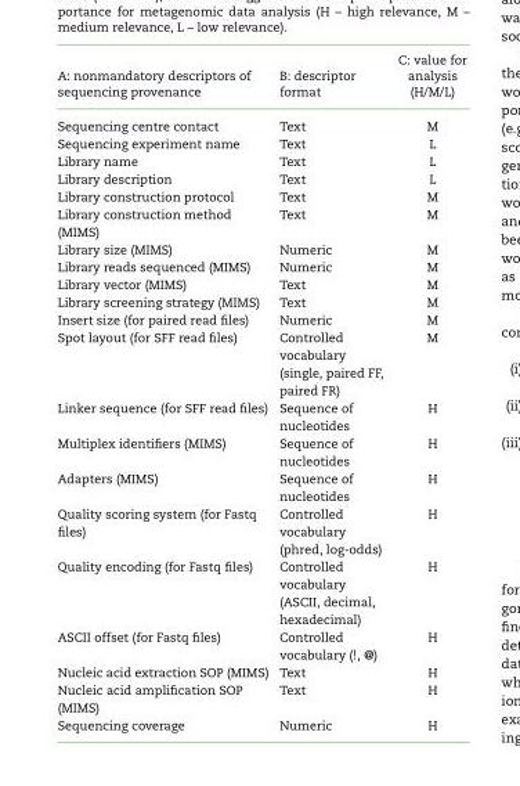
<table><thead><tr><td>A: nonmandatory descriptors of sequencing provenance</td><td>B: descriptor format</td><td>C: value for analysis (H/M/L)</td></tr></thead><tbody><tr><td>Sequencing centre contact</td><td>Text</td><td>M</td></tr><tr><td>Sequencing experiment name</td><td>Text</td><td>L</td></tr><tr><td>Library name</td><td>Text</td><td>L</td></tr><tr><td>Library description</td><td>Text</td><td>L</td></tr><tr><td>Library construction protocol</td><td>Text</td><td>M</td></tr><tr><td>Library construction method (MIMS)</td><td>Text</td><td>M</td></tr><tr><td>Library size (MIMS)</td><td>Numeric</td><td>M</td></tr><tr><td>Library reads sequenced (MIMS)</td><td>Numeric</td><td>M</td></tr><tr><td>Library vector (MIMS)</td><td>Text</td><td>M</td></tr><tr><td>Library screening strategy (MIMS)</td><td>Text</td><td>M</td></tr><tr><td>Insert size (for paired read files)</td><td>Numeric</td><td>M</td></tr><tr><td>Spot layout (for SFF read files)</td><td>Controlled vocabulary (single, paired FF, paired FR)</td><td>M</td></tr><tr><td>Linker sequence (for SFF read files)</td><td>Sequence of nucleotides</td><td>H</td></tr><tr><td>Multiplex identifiers (MIMS)</td><td>Sequence of nucleotides</td><td>H</td></tr><tr><td>Adapters (MIMS)</td><td>Sequence of nucleotides</td><td>H</td></tr><tr><td>Quality scoring system (for Fastq files)</td><td>Controlled vocabulary (phred, log-odds)</td><td>H</td></tr><tr><td>Quality encoding (for Fastq files)</td><td>Controlled vocabulary (ASCII, decimal, hexadecimal)</td><td>H</td></tr><tr><td>ASCII offset (for Fastq files)</td><td>Controlled vocabulary (!, @)</td><td>H</td></tr><tr><td>Nucleic acid extraction SOP (MIMS)</td><td>Text</td><td>H</td></tr><tr><td>Nucleic acid amplification SOP (MIMS)</td><td>Text</td><td>H</td></tr><tr><td>Sequencing coverage</td><td>Numeric</td><td>H</td></tr></tbody></table>